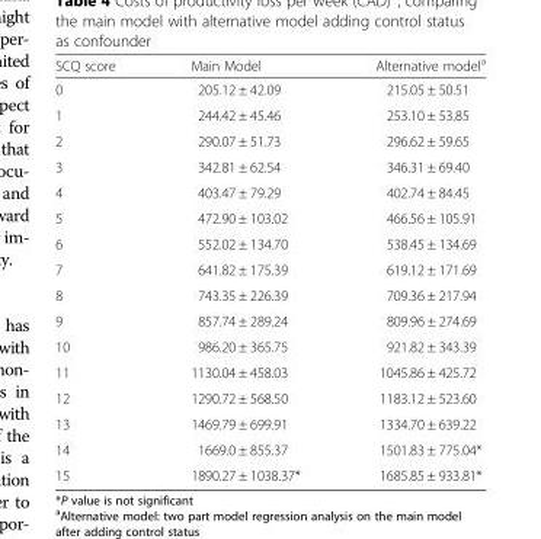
<table><thead><tr><td>SCQ score</td><td>Main Model</td><td>Alternative model<sup>a</sup></td></tr></thead><tbody><tr><td>0</td><td>205.12 ± 42.09</td><td>215.05 ± 50.51</td></tr><tr><td>1</td><td>244.42 ± 45.46</td><td>253.10 ± 53.85</td></tr><tr><td>2</td><td>290.07 ± 51.73</td><td>296.62 ± 59.65</td></tr><tr><td>3</td><td>342.81 ± 62.54</td><td>346.31 ± 69.40</td></tr><tr><td>4</td><td>403.47 ± 79.29</td><td>402.74 ± 84.45</td></tr><tr><td>5</td><td>472.90 ± 103.02</td><td>466.56 ± 105.91</td></tr><tr><td>6</td><td>552.02 ± 134.70</td><td>538.45 ± 134.69</td></tr><tr><td>7</td><td>641.82 ± 175.39</td><td>619.12 ± 171.69</td></tr><tr><td>8</td><td>743.35 ± 226.39</td><td>709.36 ± 217.94</td></tr><tr><td>9</td><td>857.74 ± 289.24</td><td>809.96 ± 274.69</td></tr><tr><td>10</td><td>986.20 ± 365.75</td><td>921.82 ± 343.39</td></tr><tr><td>11</td><td>1130.04 ± 458.03</td><td>1045.86 ± 425.72</td></tr><tr><td>12</td><td>1290.72 ± 568.50</td><td>1183.12 ± 523.60</td></tr><tr><td>13</td><td>1469.79 ± 699.91</td><td>1334.70 ± 639.22</td></tr><tr><td>14</td><td>1669.0 ± 855.37</td><td>1501.83 ± 775.04*</td></tr><tr><td>15</td><td>1890.27 ± 1038.37*</td><td>1685.85 ± 933.81*</td></tr></tbody></table>